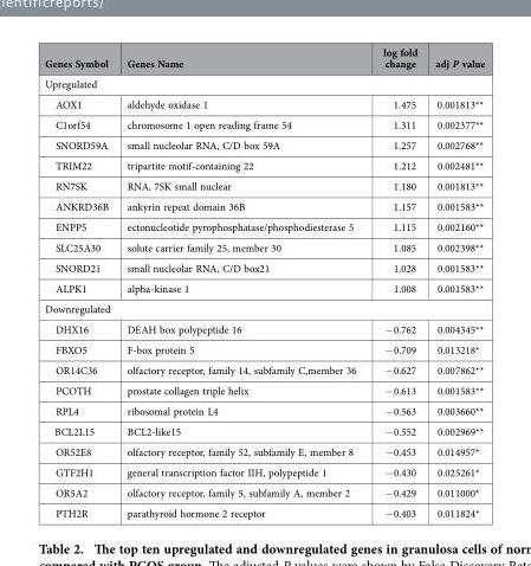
<table><thead><tr><td>Genes Symbol</td><td>Genes Name</td><td>log fold change</td><td>adj P value</td></tr></thead><tbody><tr><td colspan="4">Upregulated</td></tr><tr><td>AOX1</td><td>aldehyde oxidase 1</td><td>1.475</td><td>0.001813**</td></tr><tr><td>C1orf54</td><td>chromosome 1 open reading frame 54</td><td>1.311</td><td>0.002377**</td></tr><tr><td>SNORD59A</td><td>small nucleolar RNA, C/D box 59A</td><td>1.257</td><td>0.002768**</td></tr><tr><td>TRIM22</td><td>tripartite motif-containing 22</td><td>1.212</td><td>0.002481**</td></tr><tr><td>RN7SK</td><td>RNA, 7SK small nuclear</td><td>1.180</td><td>0.001813**</td></tr><tr><td>ANKRD36B</td><td>ankyrin repeat domain 36B</td><td>1.157</td><td>0.001583**</td></tr><tr><td>ENPP5</td><td>ectonucleotide pyrophosphatase/phosphodiesterase 5</td><td>1.115</td><td>0.002160**</td></tr><tr><td>SLC25A30</td><td>solute carrier family 25, member 30</td><td>1.085</td><td>0.002398**</td></tr><tr><td>SNORD21</td><td>small nucleolar RNA, C/D box21</td><td>1.028</td><td>0.001583**</td></tr><tr><td>ALPK1</td><td>alpha-kinase 1</td><td>1.008</td><td>0.001583**</td></tr><tr><td colspan="4">Downregulated</td></tr><tr><td>DHX16</td><td>DEAH box polypeptide 16</td><td>− 0.762</td><td>0.004345**</td></tr><tr><td>FBXO5</td><td>F-box protein 5</td><td>− 0.709</td><td>0.013218*</td></tr><tr><td>OR14C36</td><td>olfactory receptor, family 14, subfamily C,member 36</td><td>− 0.627</td><td>0.007862**</td></tr><tr><td>PCOTH</td><td>prostate collagen triple helix</td><td>− 0.613</td><td>0.001583**</td></tr><tr><td>RPL4</td><td>ribosomal protein L4</td><td>− 0.563</td><td>0.003660**</td></tr><tr><td>BCL2L15</td><td>BCL2-like15</td><td>− 0.552</td><td>0.002969**</td></tr><tr><td>OR52E8</td><td>olfactory receptor, family 52, subfamily E, member 8</td><td>− 0.453</td><td>0.014957*</td></tr><tr><td>GTF2H1</td><td>general transcription factor IIH, polypeptide 1</td><td>− 0.430</td><td>0.025261*</td></tr><tr><td>OR5A2</td><td>olfactory receptor, family 5, subfamily A, member 2</td><td>− 0.429</td><td>0.011000*</td></tr><tr><td>PTH2R</td><td>parathyroid hormone 2 receptor</td><td>− 0.403</td><td>0.011824*</td></tr></tbody></table>